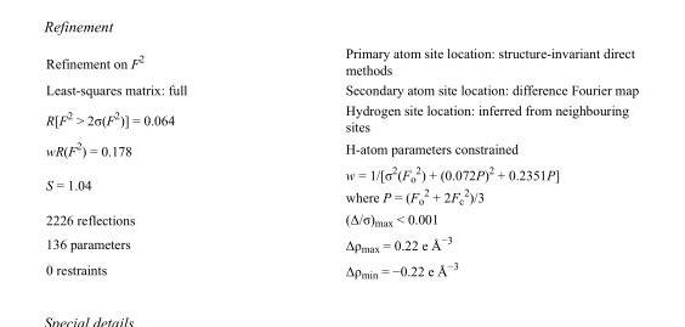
<table><tbody><tr><td>Refinement on F<sup>2</sup></td><td>Primary atom site location: structure-invariant direct methods</td></tr><tr><td>Least-squares matrix: full</td><td>Secondary atom site location: difference Fourier map</td></tr><tr><td>R[F<sup>2</sup> &gt; 2σ(F<sup>2</sup>)] = 0.064</td><td>Hydrogen site location: inferred from neighbouring sites</td></tr><tr><td>wR(F<sup>2</sup>) = 0.178</td><td>H-atom parameters constrained</td></tr><tr><td>S = 1.04</td><td>w = 1/[σ<sup>2</sup>(F<sub>o</sub> <sup>2</sup>) + (0.072P)<sup>2</sup> + 0.2351P] where P = (F<sub>o</sub> <sup>2</sup> + 2F<sub>c</sub> <sup>2</sup>)/3</td></tr><tr><td>2226 reflections</td><td>(Δ/σ)<sub>max</sub> &lt; 0.001</td></tr><tr><td>136 parameters</td><td>Δρ<sub>max</sub> = 0.22 e Å<sup>−3</sup></td></tr><tr><td>0 restraints</td><td>Δρmin = −0.22 e Å−3</td></tr></tbody></table>